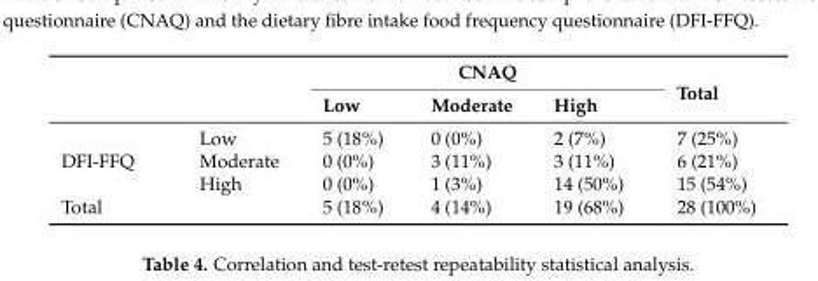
<table><thead><tr><td rowspan="2"></td><td rowspan="2"></td><td colspan="3">CNAQ</td><td rowspan="2">Total</td></tr><tr><td>Low</td><td>Moderate</td><td>High</td></tr></thead><tbody><tr><td rowspan="3">DFI-FFQ</td><td>Low</td><td>5 (18%)</td><td>0 (0%)</td><td>2 (7%)</td><td>7 (25%)</td></tr><tr><td>Moderate</td><td>0 (0%)</td><td>3 (11%)</td><td>3 (11%)</td><td>6 (21%)</td></tr><tr><td>High</td><td>0 (0%)</td><td>1 (3%)</td><td>14 (50%)</td><td>15 (54%)</td></tr><tr><td colspan="2">Total</td><td>5 (18%)</td><td>4 (14%)</td><td>19 (68%)</td><td>28 (100%)</td></tr></tbody></table>